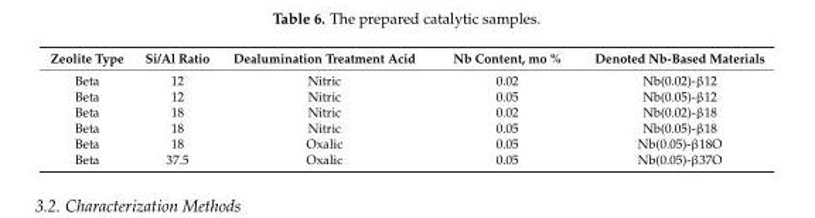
<table><thead><tr><td>Zeolite Type</td><td>Si/Al Ratio</td><td>Dealumination Treatment Acid</td><td>Nb Content, mo %</td><td>Denoted Nb-Based Materials</td></tr></thead><tbody><tr><td>Beta</td><td>12</td><td>Nitric</td><td>0.02</td><td>Nb(0.02)-β12</td></tr><tr><td>Beta</td><td>12</td><td>Nitric</td><td>0.05</td><td>Nb(0.05)-β12</td></tr><tr><td>Beta</td><td>18</td><td>Nitric</td><td>0.02</td><td>Nb(0.02)-β18</td></tr><tr><td>Beta</td><td>18</td><td>Nitric</td><td>0.05</td><td>Nb(0.05)-β18</td></tr><tr><td>Beta</td><td>18</td><td>Oxalic</td><td>0.05</td><td>Nb(0.05)-β18O</td></tr><tr><td>Beta</td><td>37.5</td><td>Oxalic</td><td>0.05</td><td>Nb(0.05)-β37O</td></tr></tbody></table>